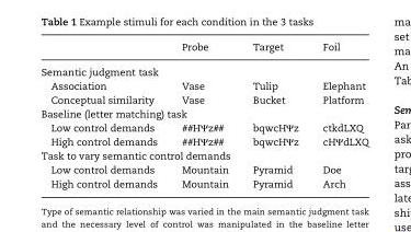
<table><thead><tr><td></td><td>Probe</td><td>Target</td><td>Foil</td></tr></thead><tbody><tr><td colspan="4">Semantic judgment task</td></tr><tr><td>Association</td><td>Vase</td><td>Tulip</td><td>Elephant</td></tr><tr><td>Conceptual similarity</td><td>Vase</td><td>Bucket</td><td>Platform</td></tr><tr><td colspan="4">Baseline (letter matching) task</td></tr><tr><td>Low control demands</td><td>##HΨz##</td><td>bqwcHΨz</td><td>ctkdLXQ</td></tr><tr><td>High control demands</td><td>##HΨz##</td><td>bqwcHΨz</td><td>cHΨdLXQ</td></tr><tr><td colspan="4">Task to vary semantic control demands</td></tr><tr><td>Low control demands</td><td>Mountain</td><td>Pyramid</td><td>Doe</td></tr><tr><td>High control demands</td><td>Mountain</td><td>Pyramid</td><td>Arch</td></tr></tbody></table>